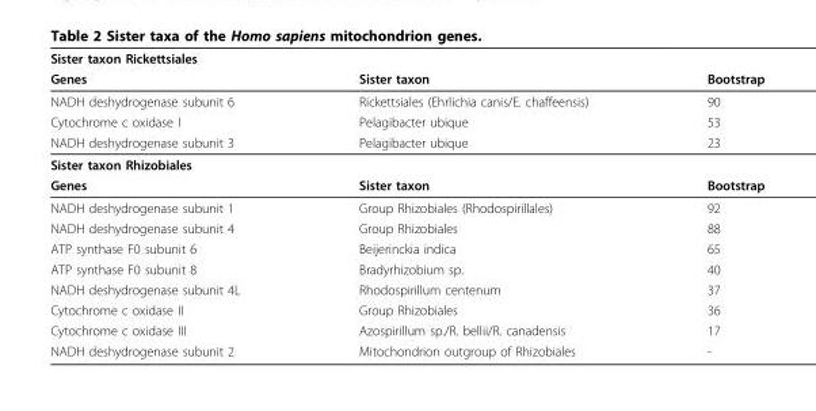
<table><thead><tr><td colspan="3">Sister taxon Rickettsiales</td></tr><tr><td>Genes</td><td>Sister taxon</td><td>Bootstrap</td></tr></thead><tbody><tr><td>NADH deshydrogenase subunit 6</td><td>Rickettsiales (Ehrlichia canis/E. chaffeensis)</td><td>90</td></tr><tr><td>Cytochrome c oxidase I</td><td>Pelagibacter ubique</td><td>53</td></tr><tr><td>NADH deshydrogenase subunit 3</td><td>Pelagibacter ubique</td><td>23</td></tr><tr><td colspan="3">Sister taxon Rhizobiales</td></tr><tr><td>Genes</td><td>Sister taxon</td><td>Bootstrap</td></tr><tr><td>NADH deshydrogenase subunit 1</td><td>Group Rhizobiales (Rhodospirillales)</td><td>92</td></tr><tr><td>NADH deshydrogenase subunit 4</td><td>Group Rhizobiales</td><td>88</td></tr><tr><td>ATP synthase F0 subunit 6</td><td>Beijerinckia indica</td><td>65</td></tr><tr><td>ATP synthase F0 subunit 8</td><td>Bradyrhizobium sp.</td><td>40</td></tr><tr><td>NADH deshydrogenase subunit 4L</td><td>Rhodospirillum centenum</td><td>37</td></tr><tr><td>Cytochrome c oxidase II</td><td>Group Rhizobiales</td><td>36</td></tr><tr><td>Cytochrome c oxidase III</td><td>Azospirillum sp./R. bellii/R. canadensis</td><td>17</td></tr><tr><td>NADH deshydrogenase subunit 2</td><td>Mitochondrion outgroup of Rhizobiales</td><td>-</td></tr></tbody></table>